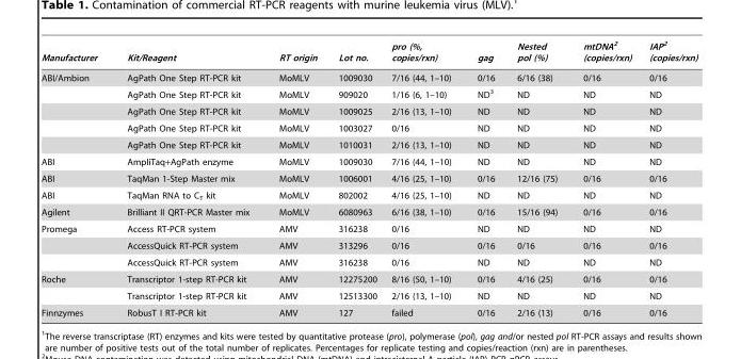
<table><thead><tr><td>Manufacturer</td><td>Kit/Reagent</td><td>RT origin</td><td>Lot no.</td><td>pro (%, copies/rxn)</td><td>gag</td><td>Nested pol (%)</td><td>mtDNA2 (copies/rxn)</td><td>IAP2 (copies/rxn)</td></tr></thead><tbody><tr><td rowspan="5">ABI/Ambion</td><td>AgPath One Step RT-PCR kit</td><td>MoMLV</td><td>1009030</td><td>7/16 (44, 1–10)</td><td>0/16</td><td>6/16 (38)</td><td>0/16</td><td>0/16</td></tr><tr><td>AgPath One Step RT-PCR kit</td><td>MoMLV</td><td>909020</td><td>1/16 (6, 1–10)</td><td>ND<sup>3</sup></td><td>ND</td><td>ND</td><td>ND</td></tr><tr><td>AgPath One Step RT-PCR kit</td><td>MoMLV</td><td>1009025</td><td>2/16 (13, 1–10)</td><td>ND</td><td>ND</td><td>ND</td><td>ND</td></tr><tr><td>AgPath One Step RT-PCR kit</td><td>MoMLV</td><td>1003027</td><td>0/16</td><td>ND</td><td>ND</td><td>ND</td><td>ND</td></tr><tr><td>AgPath One Step RT-PCR kit</td><td>MoMLV</td><td>1010031</td><td>2/16 (13, 1–10)</td><td>ND</td><td>ND</td><td>ND</td><td>ND</td></tr><tr><td>ABI</td><td>AmpliTaq+AgPath enzyme</td><td>MoMLV</td><td>1009030</td><td>7/16 (44, 1–10)</td><td>ND</td><td>ND</td><td>ND</td><td>ND</td></tr><tr><td>ABI</td><td>TaqMan 1-Step Master mix</td><td>MoMLV</td><td>1006001</td><td>4/16 (25, 1–10)</td><td>0/16</td><td>12/16 (75)</td><td>0/16</td><td>0/16</td></tr><tr><td>ABI</td><td>TaqMan RNA to C<sub>T</sub> kit</td><td>MoMLV</td><td>802002</td><td>4/16 (25, 1–10)</td><td>ND</td><td>ND</td><td>ND</td><td>ND</td></tr><tr><td>Agilent</td><td>Brilliant II QRT-PCR Master mix</td><td>MoMLV</td><td>6080963</td><td>6/16 (38, 1–10)</td><td>0/16</td><td>15/16 (94)</td><td>0/16</td><td>0/16</td></tr><tr><td rowspan="3">Promega</td><td>Access RT-PCR system</td><td>AMV</td><td>316238</td><td>0/16</td><td>ND</td><td>ND</td><td>ND</td><td>ND</td></tr><tr><td>AccessQuick RT-PCR system</td><td>AMV</td><td>313296</td><td>0/16</td><td>0/16</td><td>0/16</td><td>0/16</td><td>0/16</td></tr><tr><td>AccessQuick RT-PCR system</td><td>AMV</td><td>316238</td><td>0/16</td><td>ND</td><td>ND</td><td>ND</td><td>ND</td></tr><tr><td rowspan="2">Roche</td><td>Transcriptor 1-step RT-PCR kit</td><td>AMV</td><td>12275200</td><td>8/16 (50, 1–10)</td><td>0/16</td><td>4/16 (25)</td><td>0/16</td><td>0/16</td></tr><tr><td>Transcriptor 1-step RT-PCR kit</td><td>AMV</td><td>12513300</td><td>2/16 (13, 1–10)</td><td>ND</td><td>ND</td><td>ND</td><td>ND</td></tr><tr><td>Finnzymes</td><td>RobusT I RT-PCR kit</td><td>AMV</td><td>127</td><td>failed</td><td>0/16</td><td>2/16 (13)</td><td>0/16</td><td>0/16</td></tr></tbody></table>